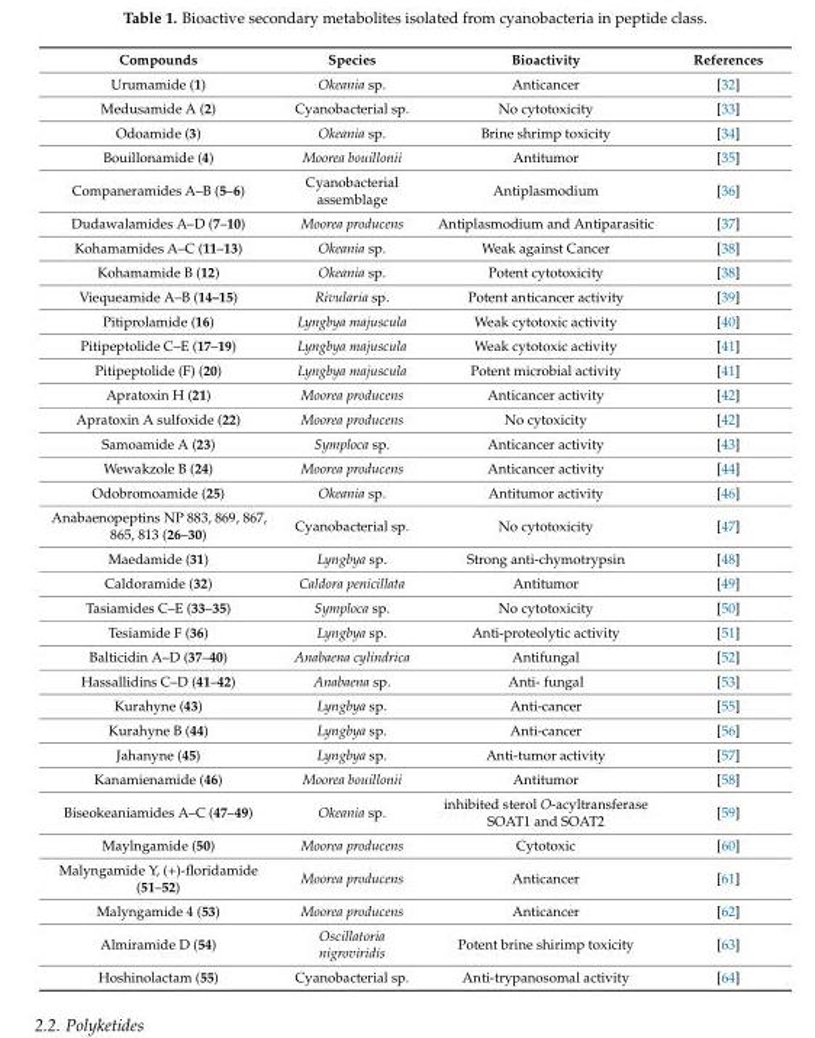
<table><thead><tr><td>Compounds</td><td>Species</td><td>Bioactivity</td><td>References</td></tr></thead><tbody><tr><td>Urumamide (1)</td><td>Okeania sp.</td><td>Anticancer</td><td>[32]</td></tr><tr><td>Medusamide A (2)</td><td>Cyanobacterial sp.</td><td>No cytotoxicity</td><td>[33]</td></tr><tr><td>Odoamide (3)</td><td>Okeania sp.</td><td>Brine shrimp toxicity</td><td>[34]</td></tr><tr><td>Bouillonamide (4)</td><td>Moorea bouillonii</td><td>Antitumor</td><td>[35]</td></tr><tr><td>Companeramides A–B (5–6)</td><td>Cyanobacterial assemblage</td><td>Antiplasmodium</td><td>[36]</td></tr><tr><td>Dudawalamides A–D (7–10)</td><td>Moorea producens</td><td>Antiplasmodium and Antiparasitic</td><td>[37]</td></tr><tr><td>Kohamamides A–C (11–13)</td><td>Okeania sp.</td><td>Weak against Cancer</td><td>[38]</td></tr><tr><td>Kohamamide B (12)</td><td>Okeania sp.</td><td>Potent cytotoxicity</td><td>[38]</td></tr><tr><td>Viequeamide A–B (14–15)</td><td>Rivularia sp.</td><td>Potent anticancer activity</td><td>[39]</td></tr><tr><td>Pitiprolamide (16)</td><td>Lyngbya majuscula</td><td>Weak cytotoxic activity</td><td>[40]</td></tr><tr><td>Pitipeptolide C–E (17–19)</td><td>Lyngbya majuscula</td><td>Weak cytotoxic activity</td><td>[41]</td></tr><tr><td>Pitipeptolide (F) (20)</td><td>Lyngbya majuscula</td><td>Potent microbial activity</td><td>[41]</td></tr><tr><td>Apratoxin H (21)</td><td>Moorea producens</td><td>Anticancer activity</td><td>[42]</td></tr><tr><td>Apratoxin A sulfoxide (22)</td><td>Moorea producens</td><td>No cytoxicity</td><td>[42]</td></tr><tr><td>Samoamide A (23)</td><td>Symploca sp.</td><td>Anticancer activity</td><td>[43]</td></tr><tr><td>Wewakzole B (24)</td><td>Moorea producens</td><td>Anticancer activity</td><td>[44]</td></tr><tr><td>Odobromoamide (25)</td><td>Okeania sp.</td><td>Antitumor activity</td><td>[46]</td></tr><tr><td>Anabaenopeptins NP 883, 869, 867, 865, 813 (26–30)</td><td>Cyanobacterial sp.</td><td>No cytotoxicity</td><td>[47]</td></tr><tr><td>Maedamide (31)</td><td>Lyngbya sp.</td><td>Strong anti-chymotrypsin</td><td>[48]</td></tr><tr><td>Caldoramide (32)</td><td>Caldora penicillata</td><td>Antitumor</td><td>[49]</td></tr><tr><td>Tasiamides C–E (33–35)</td><td>Symploca sp.</td><td>No cytotoxicity</td><td>[50]</td></tr><tr><td>Tesiamide F (36)</td><td>Lyngbya sp.</td><td>Anti-proteolytic activity</td><td>[51]</td></tr><tr><td>Balticidin A–D (37–40)</td><td>Anabaena cylindrica</td><td>Antifungal</td><td>[52]</td></tr><tr><td>Hassallidins C–D (41–42)</td><td>Anabaena sp.</td><td>Anti- fungal</td><td>[53]</td></tr><tr><td>Kurahyne (43)</td><td>Lyngbya sp.</td><td>Anti-cancer</td><td>[55]</td></tr><tr><td>Kurahyne B (44)</td><td>Lyngbya sp.</td><td>Anti-cancer</td><td>[56]</td></tr><tr><td>Jahanyne (45)</td><td>Lyngbya sp.</td><td>Anti-tumor activity</td><td>[57]</td></tr><tr><td>Kanamienamide (46)</td><td>Moorea bouillonii</td><td>Antitumor</td><td>[58]</td></tr><tr><td>Biseokeaniamides A–C (47–49)</td><td>Okeania sp.</td><td>inhibited sterol O-acyltransferase SOAT1 and SOAT2</td><td>[59]</td></tr><tr><td>Maylngamide (50)</td><td>Moorea producens</td><td>Cytotoxic</td><td>[60]</td></tr><tr><td>Malyngamide Y, (+)-floridamide (51–52)</td><td>Moorea producens</td><td>Anticancer</td><td>[61]</td></tr><tr><td>Malyngamide 4 (53)</td><td>Moorea producens</td><td>Anticancer</td><td>[62]</td></tr><tr><td>Almiramide D (54)</td><td>Oscillatoria nigroviridis</td><td>Potent brine shirimp toxicity</td><td>[63]</td></tr><tr><td>Hoshinolactam (55)</td><td>Cyanobacterial sp.</td><td>Anti-trypanosomal activity</td><td>[64]</td></tr></tbody></table>